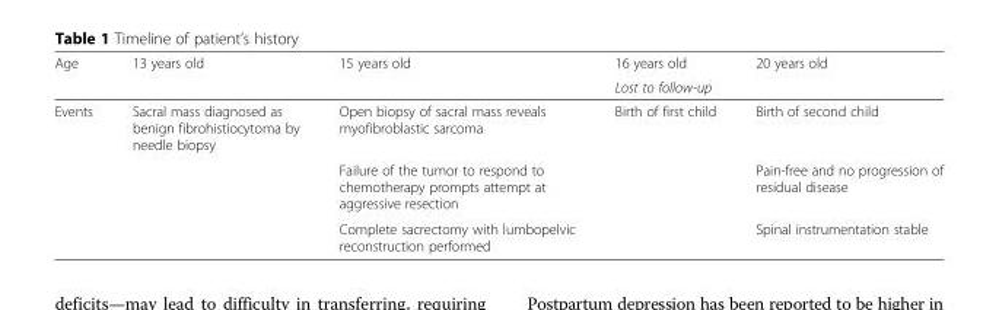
<table><thead><tr><td rowspan="2">Age</td><td rowspan="2">13 years old</td><td rowspan="2">15 years old</td><td rowspan="2">16 years old Lost to follow-up</td><td rowspan="2">20 years old</td></tr><tr></tr></thead><tbody><tr><td rowspan="3">Events</td><td>Sacral mass diagnosed as benign fibrohistiocytoma by needle biopsy</td><td>Open biopsy of sacral mass reveals myofibroblastic sarcoma</td><td>Birth of first child</td><td>Birth of second child</td></tr><tr><td></td><td>Failure of the tumor to respond to chemotherapy prompts attempt at aggressive resection</td><td></td><td>Pain-free and no progression of residual disease</td></tr><tr><td></td><td>Complete sacrectomy with lumbopelvic reconstruction performed</td><td></td><td>Spinal instrumentation stable</td></tr></tbody></table>